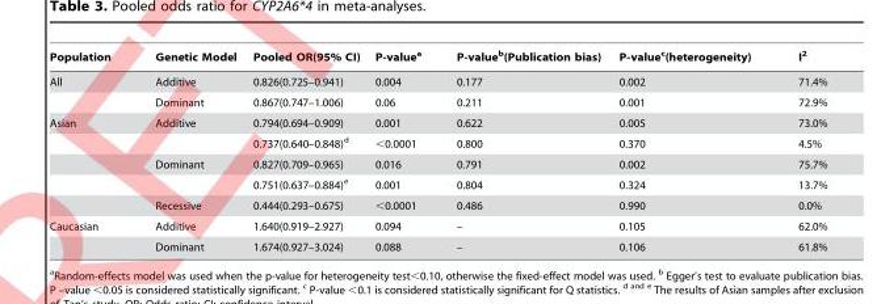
<table><thead><tr><td>Population</td><td>Genetic Model</td><td>Pooled OR(95% CI)</td><td>P-valuea</td><td>P-valueb(Publication bias)</td><td>P-valuec(heterogeneity)</td><td>I2</td></tr></thead><tbody><tr><td rowspan="2">All</td><td>Additive</td><td>0.826(0.725–0.941)</td><td>0.004</td><td>0.177</td><td>0.002</td><td>71.4%</td></tr><tr><td>Dominant</td><td>0.867(0.747–1.006)</td><td>0.06</td><td>0.211</td><td>0.001</td><td>72.9%</td></tr><tr><td rowspan="5">Asian</td><td>Additive</td><td>0.794(0.694–0.909)</td><td>0.001</td><td>0.622</td><td>0.005</td><td>73.0%</td></tr><tr><td></td><td>0.737(0.640–0.848)d</td><td>&lt;0.0001</td><td>0.800</td><td>0.370</td><td>4.5%</td></tr><tr><td>Dominant</td><td>0.827(0.709–0.965)</td><td>0.016</td><td>0.791</td><td>0.002</td><td>75.7%</td></tr><tr><td></td><td>0.751(0.637–0.884)e</td><td>0.001</td><td>0.804</td><td>0.324</td><td>13.7%</td></tr><tr><td>Recessive</td><td>0.444(0.293–0.675)</td><td>&lt;0.0001</td><td>0.486</td><td>0.990</td><td>0.0%</td></tr><tr><td rowspan="2">Caucasian</td><td>Additive</td><td>1.640(0.919–2.927)</td><td>0.094</td><td>–</td><td>0.105</td><td>62.0%</td></tr><tr><td>Dominant</td><td>1.674(0.927–3.024)</td><td>0.088</td><td>–</td><td>0.106</td><td>61.8%</td></tr></tbody></table>